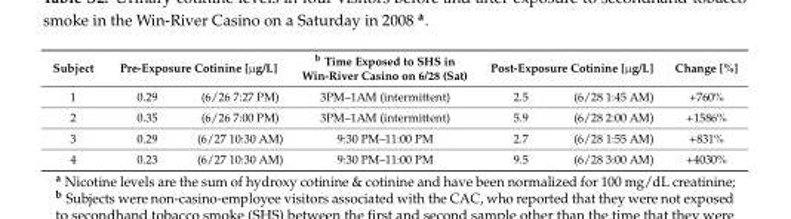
<table><thead><tr><td rowspan="2">Subject 1</td><td colspan="2">Pre-Exposure Cotinine [µg/L]</td><td rowspan="2"><sup>b</sup> Time Exposed to SHS in Win-River Casino on 6/28 (Sat) 3PM–1AM (intermittent)</td><td colspan="2">Post-Exposure Cotinine [µg/L]</td><td rowspan="2">Change [%] +760%</td></tr><tr><td>0.29</td><td>(6/26 7:27 PM)</td><td>2.5</td><td>(6/28 1:45 AM)</td></tr></thead><tbody><tr><td>2</td><td>0.35</td><td>(6/26 7:00 PM)</td><td>3PM–1AM (intermittent)</td><td>5.9</td><td>(6/28 2:00 AM)</td><td>+1586%</td></tr><tr><td>3</td><td>0.29</td><td>(6/27 10:30 AM)</td><td>9:30 PM–11:00 PM</td><td>2.7</td><td>(6/28 1:55 AM)</td><td>+831%</td></tr><tr><td>4</td><td>0.23</td><td>(6/27 10:30 AM)</td><td>9:30 PM–11:00 PM</td><td>9.5</td><td>(6/28 3:00 AM)</td><td>+4030%</td></tr></tbody></table>